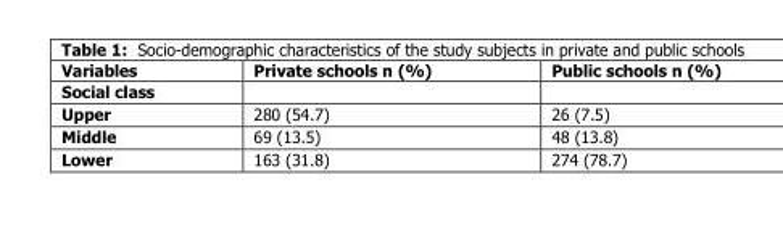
<table><thead><tr><td>Variables</td><td>Private schools n (%)</td><td>Public schools n (%)</td></tr></thead><tbody><tr><td colspan="3">Social class</td></tr><tr><td>Upper</td><td>280 (54.7)</td><td>26 (7.5)</td></tr><tr><td>Middle</td><td>69 (13.5)</td><td>48 (13.8)</td></tr><tr><td>Lower</td><td>163 (31.8)</td><td>274 (78.7)</td></tr></tbody></table>